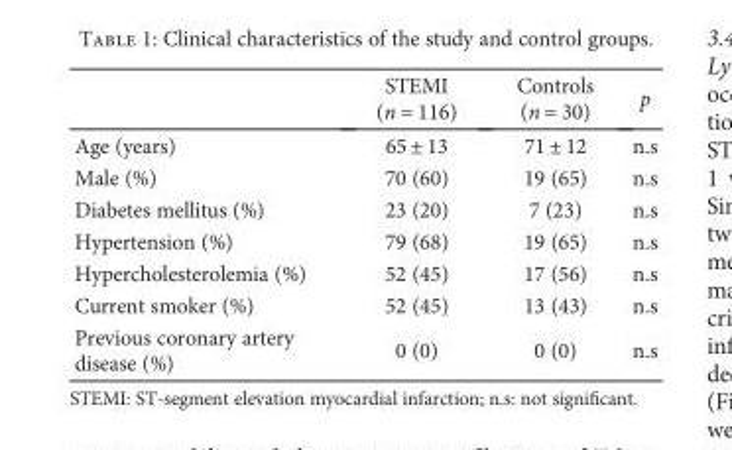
<table><thead><tr><td></td><td>STEMI (n = 116)</td><td>Controls (n = 30)</td><td>p</td></tr></thead><tbody><tr><td>Age (years)</td><td>65 ± 13</td><td>71 ± 12</td><td>n.s</td></tr><tr><td>Male (%)</td><td>70 (60)</td><td>19 (65)</td><td>n.s</td></tr><tr><td>Diabetes mellitus (%)</td><td>23 (20)</td><td>7 (23)</td><td>n.s</td></tr><tr><td>Hypertension (%)</td><td>79 (68)</td><td>19 (65)</td><td>n.s</td></tr><tr><td>Hypercholesterolemia (%)</td><td>52 (45)</td><td>17 (56)</td><td>n.s</td></tr><tr><td>Current smoker (%)</td><td>52 (45)</td><td>13 (43)</td><td>n.s</td></tr><tr><td>Previous coronary artery disease (%)</td><td>0 (0)</td><td>0 (0)</td><td>n.s</td></tr></tbody></table>